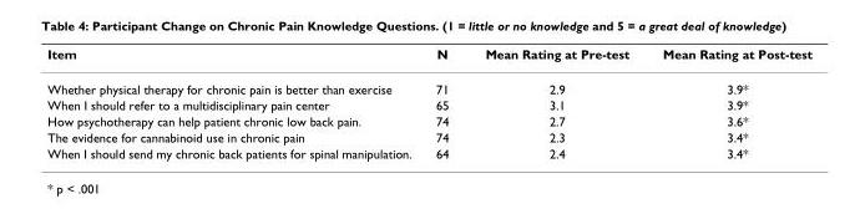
<table><thead><tr><td>Item</td><td>N</td><td>Mean Rating at Pre-test</td><td>Mean Rating at Post-test</td></tr></thead><tbody><tr><td>Whether physical therapy for chronic pain is better than exercise</td><td>71</td><td>2.9</td><td>3.9*</td></tr><tr><td>When I should refer to a multidisciplinary pain center</td><td>65</td><td>3.1</td><td>3.9*</td></tr><tr><td>How psychotherapy can help patient chronic low back pain.</td><td>74</td><td>2.7</td><td>3.6*</td></tr><tr><td>The evidence for cannabinoid use in chronic pain</td><td>74</td><td>2.3</td><td>3.4*</td></tr><tr><td>When I should send my chronic back patients for spinal manipulation.</td><td>64</td><td>2.4</td><td>3.4*</td></tr></tbody></table>